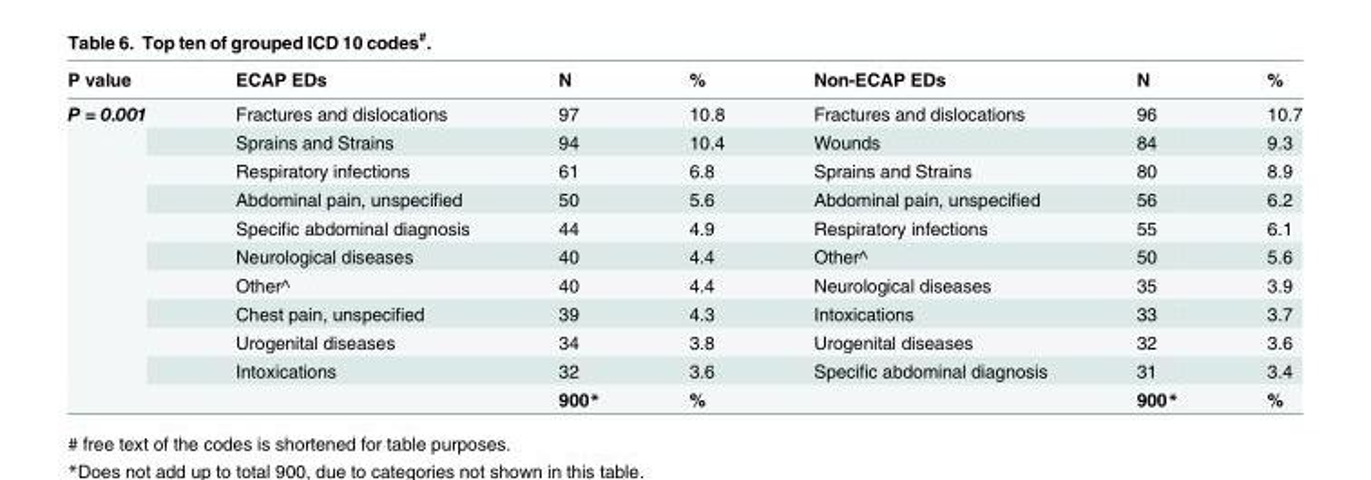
<table><thead><tr><td>P value</td><td>ECAP EDs</td><td>N</td><td>%</td><td>Non-ECAP EDs</td><td>N</td><td>%</td></tr></thead><tbody><tr><td rowspan="11">P = 0.001</td><td>Fractures and dislocations</td><td>97</td><td>10.8</td><td>Fractures and dislocations</td><td>96</td><td>10.7</td></tr><tr><td>Sprains and Strains</td><td>94</td><td>10.4</td><td>Wounds</td><td>84</td><td>9.3</td></tr><tr><td>Respiratory infections</td><td>61</td><td>6.8</td><td>Sprains and Strains</td><td>80</td><td>8.9</td></tr><tr><td>Abdominal pain, unspecified</td><td>50</td><td>5.6</td><td>Abdominal pain, unspecified</td><td>56</td><td>6.2</td></tr><tr><td>Specific abdominal diagnosis</td><td>44</td><td>4.9</td><td>Respiratory infections</td><td>55</td><td>6.1</td></tr><tr><td>Neurological diseases</td><td>40</td><td>4.4</td><td>Other^</td><td>50</td><td>5.6</td></tr><tr><td>Other^</td><td>40</td><td>4.4</td><td>Neurological diseases</td><td>35</td><td>3.9</td></tr><tr><td>Chest pain, unspecified</td><td>39</td><td>4.3</td><td>Intoxications</td><td>33</td><td>3.7</td></tr><tr><td>Urogenital diseases</td><td>34</td><td>3.8</td><td>Urogenital diseases</td><td>32</td><td>3.6</td></tr><tr><td>Intoxications</td><td>32</td><td>3.6</td><td>Specific abdominal diagnosis</td><td>31</td><td>3.4</td></tr><tr><td></td><td>900*</td><td>%</td><td></td><td>900*</td><td>%</td></tr></tbody></table>